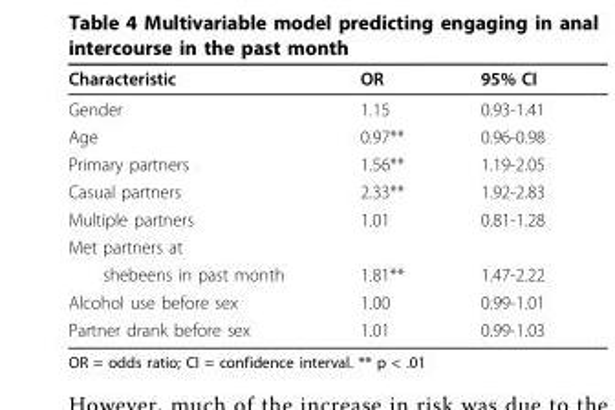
<table><thead><tr><td>Characteristic</td><td>OR</td><td>95% CI</td></tr></thead><tbody><tr><td>Gender</td><td>1.15</td><td>0.93-1.41</td></tr><tr><td>Age</td><td>0.97**</td><td>0.96-0.98</td></tr><tr><td>Primary partners</td><td>1.56**</td><td>1.19-2.05</td></tr><tr><td>Casual partners</td><td>2.33**</td><td>1.92-2.83</td></tr><tr><td>Multiple partners</td><td>1.01</td><td>0.81-1.28</td></tr><tr><td colspan="3">Met partners at</td></tr><tr><td>shebeens in past month</td><td>1.81**</td><td>1.47-2.22</td></tr><tr><td>Alcohol use before sex</td><td>1.00</td><td>0.99-1.01</td></tr><tr><td>Partner drank before sex</td><td>1.01</td><td>0.99-1.03</td></tr></tbody></table>